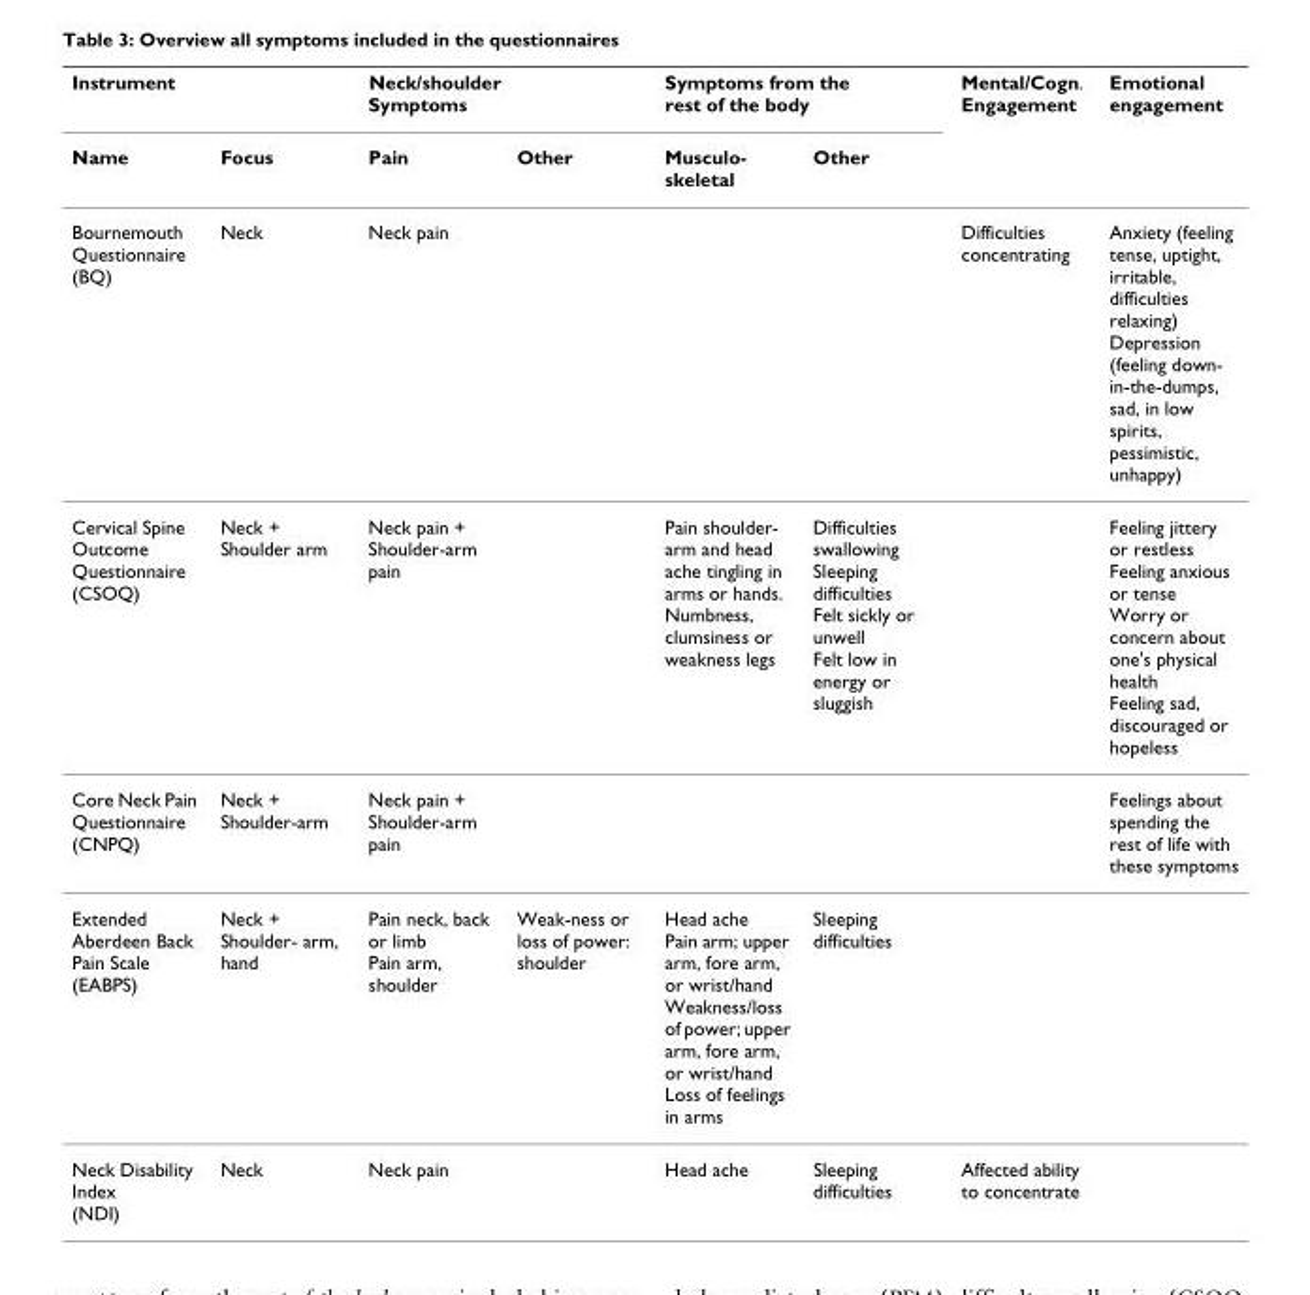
<table><thead><tr><td colspan="2">Instrument</td><td colspan="2">Neck/shoulder Symptoms</td><td colspan="2">Symptoms from the rest of the body</td><td rowspan="2">Mental/Cogn. Engagement</td><td rowspan="2">Emotional engagement</td></tr><tr><td>Name</td><td>Focus</td><td>Pain</td><td>Other</td><td>Musculo- skeletal</td><td>Other</td></tr></thead><tbody><tr><td>Bournemouth Questionnaire (BQ)</td><td>Neck</td><td>Neck pain</td><td></td><td></td><td></td><td>Difficulties concentrating</td><td>Anxiety (feeling tense, uptight, irritable, difficulties relaxing) Depression (feeling down- in-the-dumps, sad, in low spirits, pessimistic, unhappy)</td></tr><tr><td>Cervical Spine Outcome Questionnaire (CSOQ)</td><td>Neck + Shoulder arm</td><td>Neck pain + Shoulder-arm pain</td><td></td><td>Pain shoulder- arm and head ache tingling in arms or hands. Numbness, clumsiness or weakness legs</td><td>Difficulties swallowing Sleeping difficulties Felt sickly or unwell Felt low in energy or sluggish</td><td></td><td>Feeling jittery or restless Feeling anxious or tense Worry or concern about one&#x27;s physical health Feeling sad, discouraged or hopeless</td></tr><tr><td>Core Neck Pain Questionnaire (CNPQ)</td><td>Neck + Shoulder-arm</td><td>Neck pain + Shoulder-arm pain</td><td></td><td></td><td></td><td></td><td>Feelings about spending the rest of life with these symptoms</td></tr><tr><td>Extended Aberdeen Back Pain Scale (EABPS)</td><td>Neck + Shoulder- arm, hand</td><td>Pain neck, back or limb Pain arm, shoulder</td><td>Weak-ness or loss of power: shoulder</td><td>Head ache Pain arm; upper arm, fore arm, or wrist/hand Weakness/loss of power; upper arm, fore arm, or wrist/hand Loss of feelings in arms</td><td>Sleeping difficulties</td><td></td><td></td></tr><tr><td>Neck Disability Index (NDI)</td><td>Neck</td><td>Neck pain</td><td></td><td>Head ache</td><td>Sleeping difficulties</td><td>Affected ability to concentrate</td><td></td></tr></tbody></table>